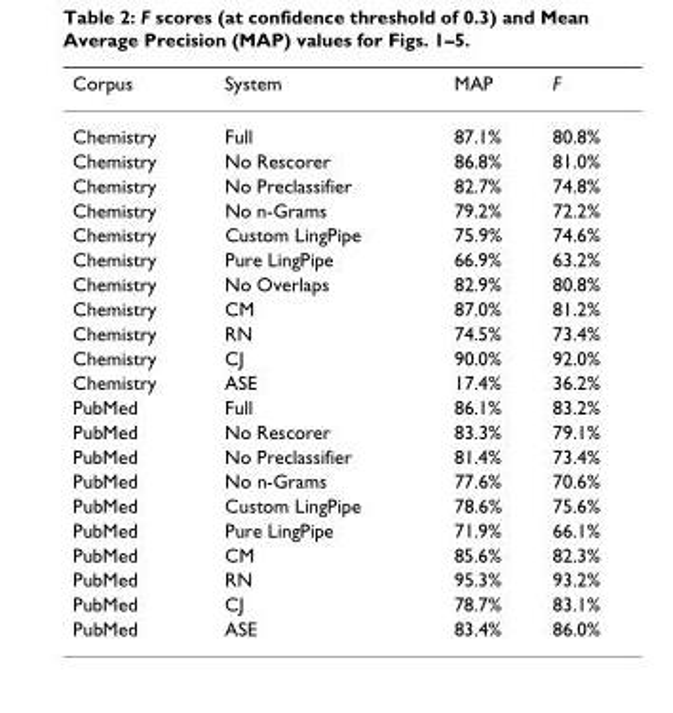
<table><thead><tr><td>Corpus</td><td>System</td><td>MAP</td><td>F</td></tr></thead><tbody><tr><td>Chemistry</td><td>Full</td><td>87.1%</td><td>80.8%</td></tr><tr><td>Chemistry</td><td>No Rescorer</td><td>86.8%</td><td>81.0%</td></tr><tr><td>Chemistry</td><td>No Preclassifier</td><td>82.7%</td><td>74.8%</td></tr><tr><td>Chemistry</td><td>No n-Grams</td><td>79.2%</td><td>72.2%</td></tr><tr><td>Chemistry</td><td>Custom LingPipe</td><td>75.9%</td><td>74.6%</td></tr><tr><td>Chemistry</td><td>Pure LingPipe</td><td>66.9%</td><td>63.2%</td></tr><tr><td>Chemistry</td><td>No Overlaps</td><td>82.9%</td><td>80.8%</td></tr><tr><td>Chemistry</td><td>CM</td><td>87.0%</td><td>81.2%</td></tr><tr><td>Chemistry</td><td>RN</td><td>74.5%</td><td>73.4%</td></tr><tr><td>Chemistry</td><td>CJ</td><td>90.0%</td><td>92.0%</td></tr><tr><td>Chemistry</td><td>ASE</td><td>17.4%</td><td>36.2%</td></tr><tr><td>PubMed</td><td>Full</td><td>86.1%</td><td>83.2%</td></tr><tr><td>PubMed</td><td>No Rescorer</td><td>83.3%</td><td>79.1%</td></tr><tr><td>PubMed</td><td>No Preclassifier</td><td>81.4%</td><td>73.4%</td></tr><tr><td>PubMed</td><td>No n-Grams</td><td>77.6%</td><td>70.6%</td></tr><tr><td>PubMed</td><td>Custom LingPipe</td><td>78.6%</td><td>75.6%</td></tr><tr><td>PubMed</td><td>Pure LingPipe</td><td>71.9%</td><td>66.1%</td></tr><tr><td>PubMed</td><td>CM</td><td>85.6%</td><td>82.3%</td></tr><tr><td>PubMed</td><td>RN</td><td>95.3%</td><td>93.2%</td></tr><tr><td>PubMed</td><td>CJ</td><td>78.7%</td><td>83.1%</td></tr><tr><td>PubMed</td><td>ASE</td><td>83.4%</td><td>86.0%</td></tr></tbody></table>